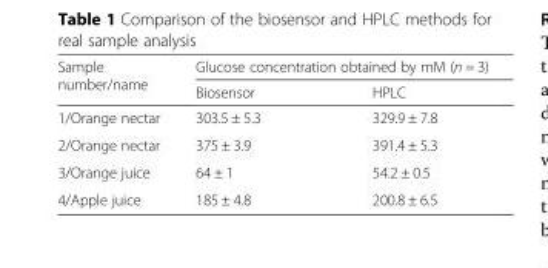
<table><thead><tr><td rowspan="2">Sample number/name</td><td colspan="2">Glucose concentration obtained by mM (n = 3)</td></tr><tr><td>Biosensor</td><td>HPLC</td></tr></thead><tbody><tr><td>1/Orange nectar</td><td>303.5 ± 5.3</td><td>329.9 ± 7.8</td></tr><tr><td>2/Orange nectar</td><td>375 ± 3.9</td><td>391.4 ± 5.3</td></tr><tr><td>3/Orange juice</td><td>64 ± 1</td><td>54.2 ± 0.5</td></tr><tr><td>4/Apple juice</td><td>185 ± 4.8</td><td>200.8 ± 6.5</td></tr></tbody></table>